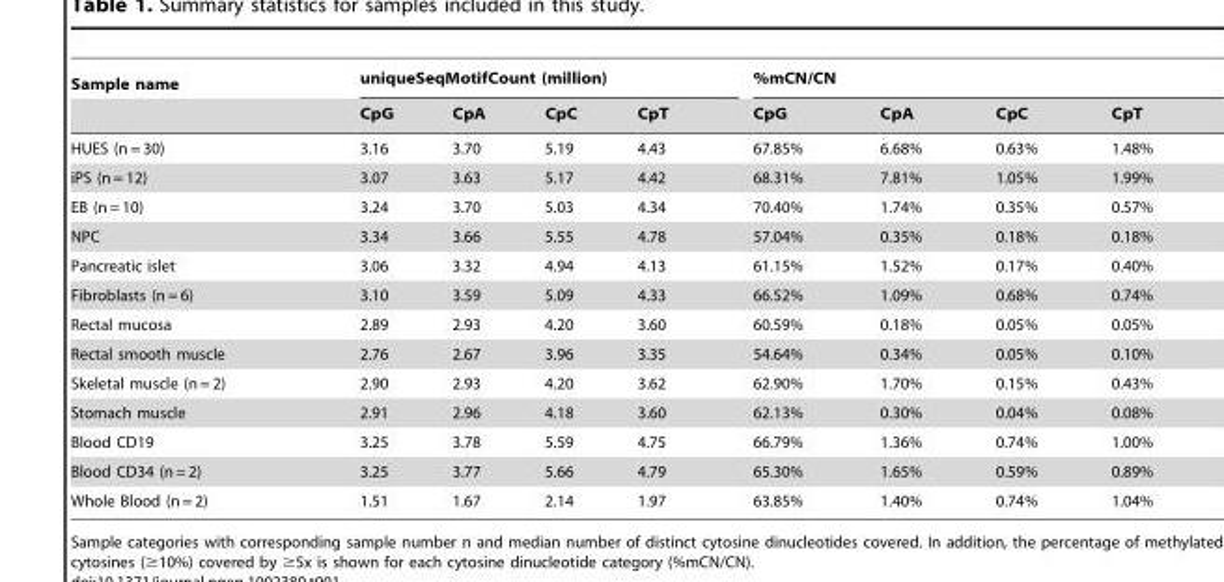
<table><thead><tr><td rowspan="2">Sample name</td><td colspan="4">uniqueSeqMotifCount (million)</td><td colspan="4">%mCN/CN</td></tr><tr><td>CpG</td><td>CpA</td><td>CpC</td><td>CpT</td><td>CpG</td><td>CpA</td><td>CpC</td><td>CpT</td></tr></thead><tbody><tr><td>HUES (n = 30)</td><td>3.16</td><td>3.70</td><td>5.19</td><td>4.43</td><td>67.85%</td><td>6.68%</td><td>0.63%</td><td>1.48%</td></tr><tr><td>iPS (n = 12)</td><td>3.07</td><td>3.63</td><td>5.17</td><td>4.42</td><td>68.31%</td><td>7.81%</td><td>1.05%</td><td>1.99%</td></tr><tr><td>EB (n = 10)</td><td>3.24</td><td>3.70</td><td>5.03</td><td>4.34</td><td>70.40%</td><td>1.74%</td><td>0.35%</td><td>0.57%</td></tr><tr><td>NPC</td><td>3.34</td><td>3.66</td><td>5.55</td><td>4.78</td><td>57.04%</td><td>0.35%</td><td>0.18%</td><td>0.18%</td></tr><tr><td>Pancreatic islet</td><td>3.06</td><td>3.32</td><td>4.94</td><td>4.13</td><td>61.15%</td><td>1.52%</td><td>0.17%</td><td>0.40%</td></tr><tr><td>Fibroblasts (n = 6)</td><td>3.10</td><td>3.59</td><td>5.09</td><td>4.33</td><td>66.52%</td><td>1.09%</td><td>0.68%</td><td>0.74%</td></tr><tr><td>Rectal mucosa</td><td>2.89</td><td>2.93</td><td>4.20</td><td>3.60</td><td>60.59%</td><td>0.18%</td><td>0.05%</td><td>0.05%</td></tr><tr><td>Rectal smooth muscle</td><td>2.76</td><td>2.67</td><td>3.96</td><td>3.35</td><td>54.64%</td><td>0.34%</td><td>0.05%</td><td>0.10%</td></tr><tr><td>Skeletal muscle (n = 2)</td><td>2.90</td><td>2.93</td><td>4.20</td><td>3.62</td><td>62.90%</td><td>1.70%</td><td>0.15%</td><td>0.43%</td></tr><tr><td>Stomach muscle</td><td>2.91</td><td>2.96</td><td>4.18</td><td>3.60</td><td>62.13%</td><td>0.30%</td><td>0.04%</td><td>0.08%</td></tr><tr><td>Blood CD19</td><td>3.25</td><td>3.78</td><td>5.59</td><td>4.75</td><td>66.79%</td><td>1.36%</td><td>0.74%</td><td>1.00%</td></tr><tr><td>Blood CD34 (n = 2)</td><td>3.25</td><td>3.77</td><td>5.66</td><td>4.79</td><td>65.30%</td><td>1.65%</td><td>0.59%</td><td>0.89%</td></tr><tr><td>Whole Blood (n = 2)</td><td>1.51</td><td>1.67</td><td>2.14</td><td>1.97</td><td>63.85%</td><td>1.40%</td><td>0.74%</td><td>1.04%</td></tr></tbody></table>